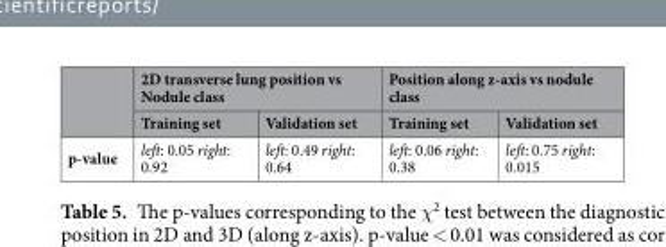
<table><thead><tr><td rowspan="2"></td><td colspan="2">2D transverse lung position vs Nodule class</td><td colspan="2">Position along z-axis vs nodule class</td></tr><tr><td>Training set</td><td>Validation set</td><td>Training set</td><td>Validation set</td></tr></thead><tbody><tr><td>p-value</td><td>left: 0.05 right: 0.92</td><td>left: 0.49 right: 0.64</td><td>left: 0.06 right: 0.38</td><td>left: 0.75 right: 0.015</td></tr></tbody></table>